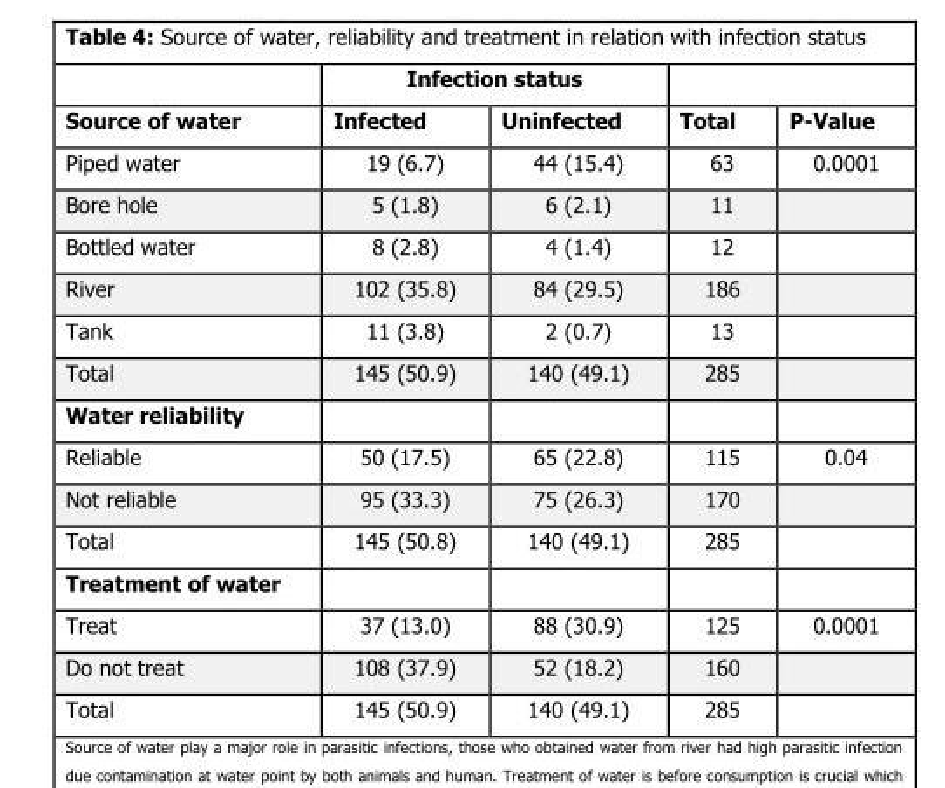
<table><thead><tr><td rowspan="2">Source of water</td><td colspan="2">Infection status</td><td rowspan="2">Total</td><td rowspan="2">P-Value</td></tr><tr><td>Infected</td><td>Uninfected</td></tr></thead><tbody><tr><td>Piped water</td><td>19 (6.7)</td><td>44 (15.4)</td><td>63</td><td>0.0001</td></tr><tr><td>Bore hole</td><td>5 (1.8)</td><td>6 (2.1)</td><td>11</td><td></td></tr><tr><td>Bottled water</td><td>8 (2.8)</td><td>4 (1.4)</td><td>12</td><td></td></tr><tr><td>River</td><td>102 (35.8)</td><td>84 (29.5)</td><td>186</td><td></td></tr><tr><td>Tank</td><td>11 (3.8)</td><td>2 (0.7)</td><td>13</td><td></td></tr><tr><td>Total</td><td>145 (50.9)</td><td>140 (49.1)</td><td>285</td><td></td></tr><tr><td colspan="5">Water reliability</td></tr><tr><td>Reliable</td><td>50 (17.5)</td><td>65 (22.8)</td><td>115</td><td>0.04</td></tr><tr><td>Not reliable</td><td>95 (33.3)</td><td>75 (26.3)</td><td>170</td><td></td></tr><tr><td>Total</td><td>145 (50.8)</td><td>140 (49.1)</td><td>285</td><td></td></tr><tr><td colspan="5">Treatment of water</td></tr><tr><td>Treat</td><td>37 (13.0)</td><td>88 (30.9)</td><td>125</td><td>0.0001</td></tr><tr><td>Do not treat</td><td>108 (37.9)</td><td>52 (18.2)</td><td>160</td><td></td></tr><tr><td>Total</td><td>145 (50.9)</td><td>140 (49.1)</td><td>285</td><td></td></tr></tbody></table>